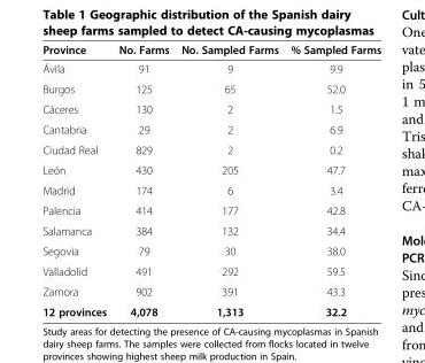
<table><thead><tr><td>Province</td><td>No. Farms</td><td>No. Sampled Farms</td><td>% Sampled Farms</td></tr></thead><tbody><tr><td>Ávila</td><td>91</td><td>9</td><td>9.9</td></tr><tr><td>Burgos</td><td>125</td><td>65</td><td>52.0</td></tr><tr><td>Cáceres</td><td>130</td><td>2</td><td>1.5</td></tr><tr><td>Cantabria</td><td>29</td><td>2</td><td>6.9</td></tr><tr><td>Ciudad Real</td><td>829</td><td>2</td><td>0.2</td></tr><tr><td>León</td><td>430</td><td>205</td><td>47.7</td></tr><tr><td>Madrid</td><td>174</td><td>6</td><td>3.4</td></tr><tr><td>Palencia</td><td>414</td><td>177</td><td>42.8</td></tr><tr><td>Salamanca</td><td>384</td><td>132</td><td>34.4</td></tr><tr><td>Segovia</td><td>79</td><td>30</td><td>38.0</td></tr><tr><td>Valladolid</td><td>491</td><td>292</td><td>59.5</td></tr><tr><td>Zamora</td><td>902</td><td>391</td><td>43.3</td></tr><tr><td>12 provinces</td><td>4,078</td><td>1,313</td><td>32.2</td></tr></tbody></table>